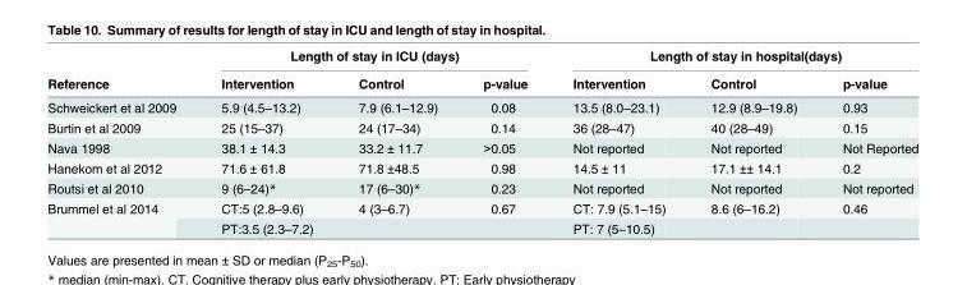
<table><thead><tr><td rowspan="2">Reference</td><td colspan="3">Length of stay in ICU (days)</td><td colspan="3">Length of stay in hospital(days)</td></tr><tr><td>Intervention</td><td>Control</td><td>p-value</td><td>Intervention</td><td>Control</td><td>p-value</td></tr></thead><tbody><tr><td>Schweickert et al 2009</td><td>5.9 (4.5–13.2)</td><td>7.9 (6.1–12.9)</td><td>0.08</td><td>13.5 (8.0–23.1)</td><td>12.9 (8.9–19.8)</td><td>0.93</td></tr><tr><td>Burtin et al 2009</td><td>25 (15–37)</td><td>24 (17–34)</td><td>0.14</td><td>36 (28–47)</td><td>40 (28–49)</td><td>0.15</td></tr><tr><td>Nava 1998</td><td>38.1 ± 14.3</td><td>33.2 ± 11.7</td><td>&gt;0.05</td><td>Not reported</td><td>Not reported</td><td>Not Reported</td></tr><tr><td>Hanekom et al 2012</td><td>71.6 ± 61.8</td><td>71.8 ±48.5</td><td>0.98</td><td>14.5 ± 11</td><td>17.1 ±± 14.1</td><td>0.2</td></tr><tr><td>Routsi et al 2010</td><td>9 (6–24)*</td><td>17 (6–30)*</td><td>0.23</td><td>Not reported</td><td>Not reported</td><td>Not reported</td></tr><tr><td rowspan="2">Brummel et al 2014</td><td>CT:5 (2.8–9.6)</td><td>4 (3–6.7)</td><td>0.67</td><td>CT: 7.9 (5.1–15)</td><td>8.6 (6–16.2)</td><td>0.46</td></tr><tr><td>PT:3.5 (2.3–7.2)</td><td></td><td></td><td>PT: 7 (5–10.5)</td><td></td><td></td></tr></tbody></table>